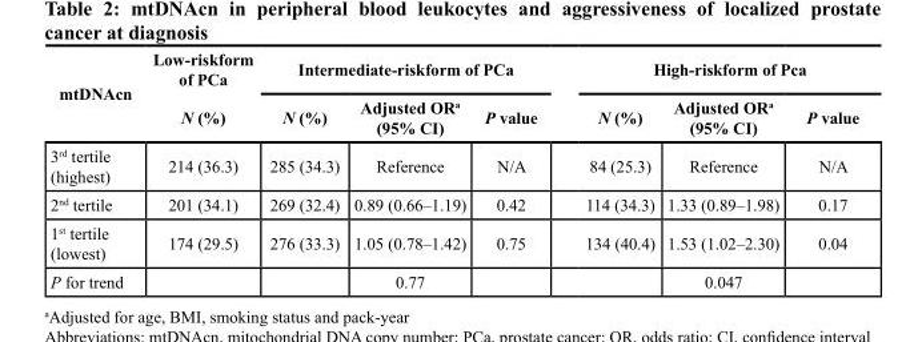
<table><thead><tr><td rowspan="2">mtDNAcn</td><td rowspan="2">Low-riskform of PCa N (%)</td><td colspan="3">Intermediate-riskform of PCa</td><td colspan="3">High-riskform of Pca</td></tr><tr><td>N (%)</td><td>Adjusted OR<sup>a</sup> (95% CI)</td><td>P value</td><td>N (%)</td><td>Adjusted OR<sup>a</sup> (95% CI)</td><td>P value</td></tr></thead><tbody><tr><td>3<sup>rd</sup> tertile (highest)</td><td>214 (36.3)</td><td>285 (34.3)</td><td>Reference</td><td>N/A</td><td>84 (25.3)</td><td>Reference</td><td>N/A</td></tr><tr><td>2<sup>nd</sup> tertile</td><td>201 (34.1)</td><td>269 (32.4)</td><td>0.89 (0.66–1.19)</td><td>0.42</td><td>114 (34.3)</td><td>1.33 (0.89–1.98)</td><td>0.17</td></tr><tr><td>1<sup>st</sup> tertile (lowest)</td><td>174 (29.5)</td><td>276 (33.3)</td><td>1.05 (0.78–1.42)</td><td>0.75</td><td>134 (40.4)</td><td>1.53 (1.02–2.30)</td><td>0.04</td></tr><tr><td>P for trend</td><td></td><td></td><td>0.77</td><td></td><td></td><td>0.047</td><td></td></tr></tbody></table>